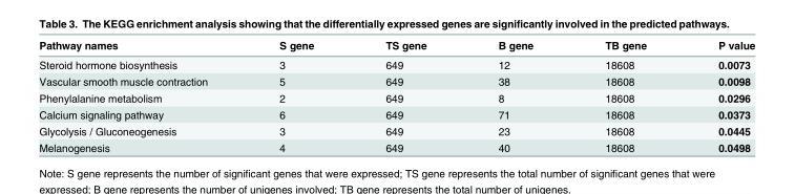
<table><thead><tr><td>Pathway names</td><td>S gene</td><td>TS gene</td><td>B gene</td><td>TB gene</td><td>P value</td></tr></thead><tbody><tr><td>Steroid hormone biosynthesis</td><td>3</td><td>649</td><td>12</td><td>18608</td><td>0.0073</td></tr><tr><td>Vascular smooth muscle contraction</td><td>5</td><td>649</td><td>38</td><td>18608</td><td>0.0098</td></tr><tr><td>Phenylalanine metabolism</td><td>2</td><td>649</td><td>8</td><td>18608</td><td>0.0296</td></tr><tr><td>Calcium signaling pathway</td><td>6</td><td>649</td><td>71</td><td>18608</td><td>0.0373</td></tr><tr><td>Glycolysis / Gluconeogenesis</td><td>3</td><td>649</td><td>23</td><td>18608</td><td>0.0445</td></tr><tr><td>Melanogenesis</td><td>4</td><td>649</td><td>40</td><td>18608</td><td>0.0498</td></tr></tbody></table>